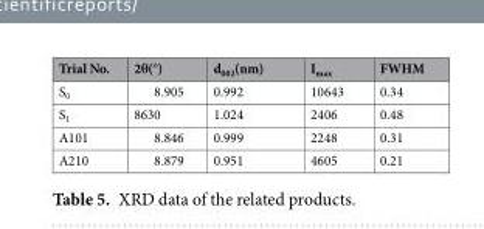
<table><thead><tr><td>Trial No.</td><td>2θ(°)</td><td>d<sub>002</sub>(nm)</td><td>I<sub>max</sub></td><td>FWHM</td></tr></thead><tbody><tr><td>S<sub>0</sub></td><td>8.905</td><td>0.992</td><td>10643</td><td>0.34</td></tr><tr><td>S<sub>1</sub></td><td>8630</td><td>1.024</td><td>2406</td><td>0.48</td></tr><tr><td>A101</td><td>8.846</td><td>0.999</td><td>2248</td><td>0.31</td></tr><tr><td>A210</td><td>8.879</td><td>0.951</td><td>4605</td><td>0.21</td></tr></tbody></table>